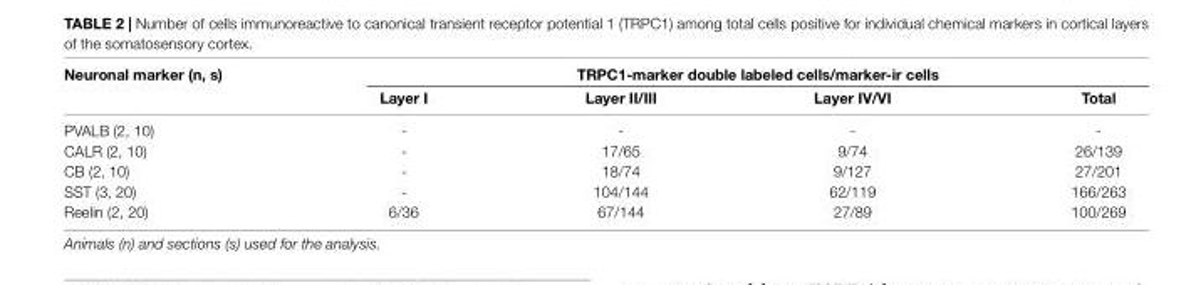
<table><thead><tr><td rowspan="2">Neuronal marker (n, s)</td><td colspan="4">TRPC1-marker double labeled cells/marker-ir cells</td></tr><tr><td>Layer I</td><td>Layer II/III</td><td>Layer IV/VI</td><td>Total</td></tr></thead><tbody><tr><td>PVALB (2, 10)</td><td>-</td><td>-</td><td>-</td><td>-</td></tr><tr><td>CALR (2, 10)</td><td>-</td><td>17/65</td><td>9/74</td><td>26/139</td></tr><tr><td>CB (2, 10)</td><td>-</td><td>18/74</td><td>9/127</td><td>27/201</td></tr><tr><td>SST (3, 20)</td><td>-</td><td>104/144</td><td>62/119</td><td>166/263</td></tr><tr><td>Reelin (2, 20)</td><td>6/36</td><td>67/144</td><td>27/89</td><td>100/269</td></tr></tbody></table>